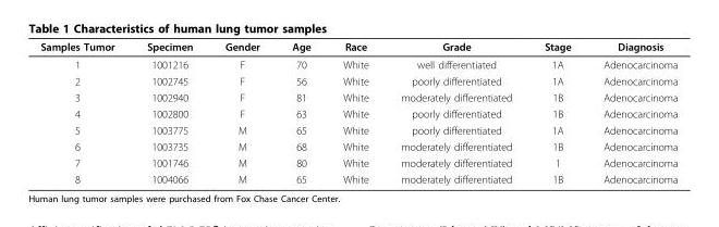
<table><thead><tr><td>Samples Tumor</td><td>Specimen</td><td>Gender</td><td>Age</td><td>Race</td><td>Grade</td><td>Stage</td><td>Diagnosis</td></tr></thead><tbody><tr><td>1</td><td>1001216</td><td>F</td><td>70</td><td>White</td><td>well differentiated</td><td>1A</td><td>Adenocarcinoma</td></tr><tr><td>2</td><td>1002745</td><td>F</td><td>56</td><td>White</td><td>poorly differentiated</td><td>1A</td><td>Adenocarcinoma</td></tr><tr><td>3</td><td>1002940</td><td>F</td><td>81</td><td>White</td><td>moderately differentiated</td><td>1B</td><td>Adenocarcinoma</td></tr><tr><td>4</td><td>1002800</td><td>F</td><td>63</td><td>White</td><td>poorly differentiated</td><td>1B</td><td>Adenocarcinoma</td></tr><tr><td>5</td><td>1003775</td><td>M</td><td>65</td><td>White</td><td>poorly differentiated</td><td>1A</td><td>Adenocarcinoma</td></tr><tr><td>6</td><td>1003735</td><td>M</td><td>68</td><td>White</td><td>moderately differentiated</td><td>1B</td><td>Adenocarcinoma</td></tr><tr><td>7</td><td>1001746</td><td>M</td><td>80</td><td>White</td><td>moderately differentiated</td><td>1</td><td>Adenocarcinoma</td></tr><tr><td>8</td><td>1004066</td><td>M</td><td>65</td><td>White</td><td>moderately differentiated</td><td>1B</td><td>Adenocarcinoma</td></tr></tbody></table>